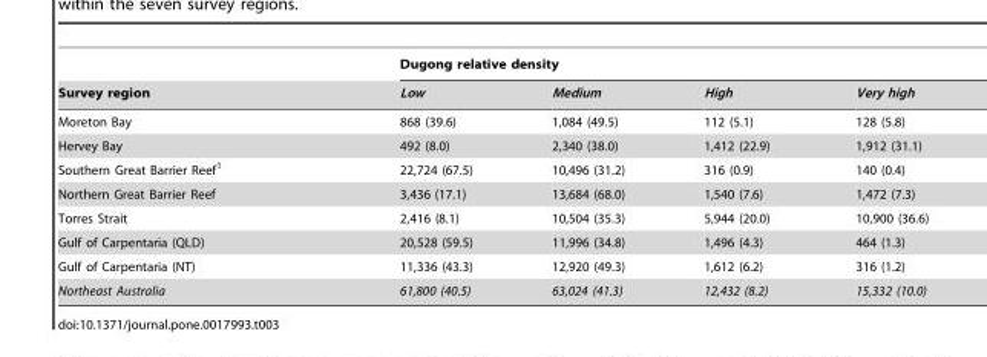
<table><thead><tr><td rowspan="2">Survey region</td><td colspan="4">Dugong relative density</td></tr><tr><td>Low</td><td>Medium</td><td>High</td><td>Very high</td></tr></thead><tbody><tr><td>Moreton Bay</td><td>868 (39.6)</td><td>1,084 (49.5)</td><td>112 (5.1)</td><td>128 (5.8)</td></tr><tr><td>Hervey Bay</td><td>492 (8.0)</td><td>2,340 (38.0)</td><td>1,412 (22.9)</td><td>1,912 (31.1)</td></tr><tr><td>Southern Great Barrier Reef<sup>1</sup></td><td>22,724 (67.5)</td><td>10,496 (31.2)</td><td>316 (0.9)</td><td>140 (0.4)</td></tr><tr><td>Northern Great Barrier Reef</td><td>3,436 (17.1)</td><td>13,684 (68.0)</td><td>1,540 (7.6)</td><td>1,472 (7.3)</td></tr><tr><td>Torres Strait</td><td>2,416 (8.1)</td><td>10,504 (35.3)</td><td>5,944 (20.0)</td><td>10,900 (36.6)</td></tr><tr><td>Gulf of Carpentaria (QLD)</td><td>20,528 (59.5)</td><td>11,996 (34.8)</td><td>1,496 (4.3)</td><td>464 (1.3)</td></tr><tr><td>Gulf of Carpentaria (NT)</td><td>11,336 (43.3)</td><td>12,920 (49.3)</td><td>1,612 (6.2)</td><td>316 (1.2)</td></tr><tr><td>Northeast Australia</td><td>61,800 (40.5)</td><td>63,024 (41.3)</td><td>12,432 (8.2)</td><td>15,332 (10.0)</td></tr></tbody></table>